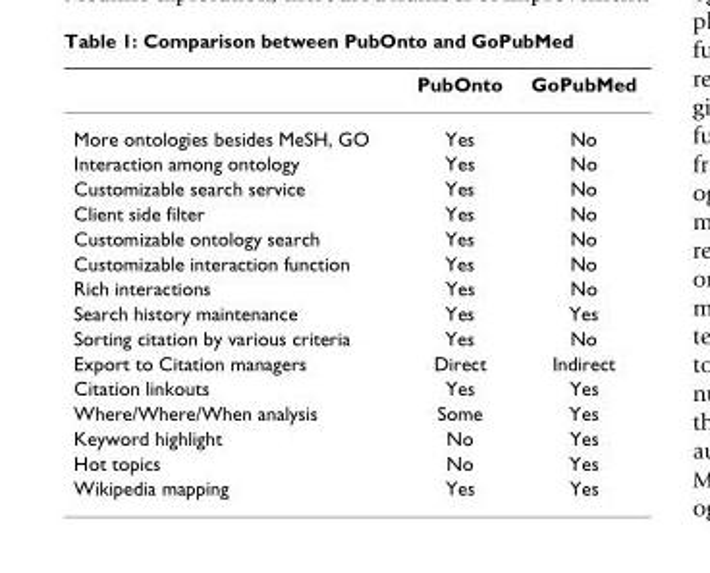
<table><thead><tr><td></td><td>PubOnto</td><td>GoPubMed</td></tr></thead><tbody><tr><td>More ontologies besides MeSH, GO</td><td>Yes</td><td>No</td></tr><tr><td>Interaction among ontology</td><td>Yes</td><td>No</td></tr><tr><td>Customizable search service</td><td>Yes</td><td>No</td></tr><tr><td>Client side filter</td><td>Yes</td><td>No</td></tr><tr><td>Customizable ontology search</td><td>Yes</td><td>No</td></tr><tr><td>Customizable interaction function</td><td>Yes</td><td>No</td></tr><tr><td>Rich interactions</td><td>Yes</td><td>No</td></tr><tr><td>Search history maintenance</td><td>Yes</td><td>Yes</td></tr><tr><td>Sorting citation by various criteria</td><td>Yes</td><td>No</td></tr><tr><td>Export to Citation managers</td><td>Direct</td><td>Indirect</td></tr><tr><td>Citation linkouts</td><td>Yes</td><td>Yes</td></tr><tr><td>Where/Where/When analysis</td><td>Some</td><td>Yes</td></tr><tr><td>Keyword highlight</td><td>No</td><td>Yes</td></tr><tr><td>Hot topics</td><td>No</td><td>Yes</td></tr><tr><td>Wikipedia mapping</td><td>Yes</td><td>Yes</td></tr></tbody></table>